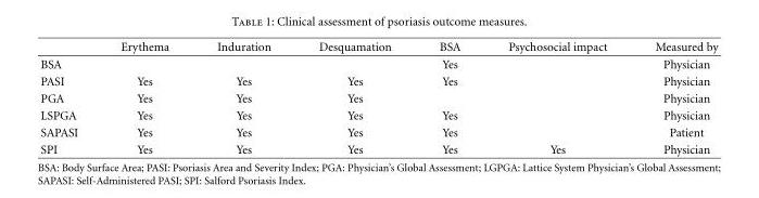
<table><thead><tr><td></td><td>Erythema</td><td>Induration</td><td>Desquamation</td><td>BSA</td><td>Psychosocial impact</td><td>Measured by</td></tr></thead><tbody><tr><td>BSA</td><td></td><td></td><td></td><td>Yes</td><td></td><td>Physician</td></tr><tr><td>PASI</td><td>Yes</td><td>Yes</td><td>Yes</td><td>Yes</td><td></td><td>Physician</td></tr><tr><td>PGA</td><td>Yes</td><td>Yes</td><td>Yes</td><td></td><td></td><td>Physician</td></tr><tr><td>LSPGA</td><td>Yes</td><td>Yes</td><td>Yes</td><td>Yes</td><td></td><td>Physician</td></tr><tr><td>SAPASI</td><td>Yes</td><td>Yes</td><td>Yes</td><td>Yes</td><td></td><td>Patient</td></tr><tr><td>SPI</td><td>Yes</td><td>Yes</td><td>Yes</td><td>Yes</td><td>Yes</td><td>Physician</td></tr></tbody></table>